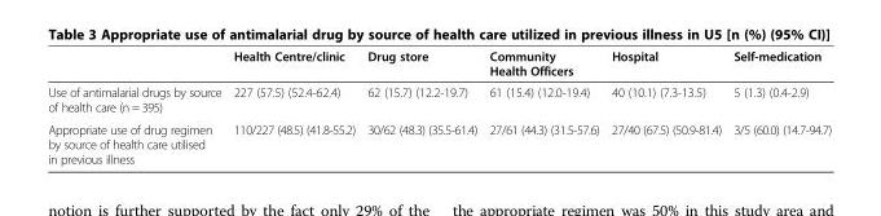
<table><thead><tr><td></td><td>Health Centre/clinic</td><td>Drug store</td><td>Community Health Officers</td><td>Hospital</td><td>Self-medication</td></tr></thead><tbody><tr><td>Use of antimalarial drugs by source of health care (n = 395)</td><td>227 (57.5) (52.4-62.4)</td><td>62 (15.7) (12.2-19.7)</td><td>61 (15.4) (12.0-19.4)</td><td>40 (10.1) (7.3-13.5)</td><td>5 (1.3) (0.4-2.9)</td></tr><tr><td>Appropriate use of drug regimen by source of health care utilised in previous illness</td><td>110/227 (48.5) (41.8-55.2)</td><td>30/62 (48.3) (35.5-61.4)</td><td>27/61 (44.3) (31.5-57.6)</td><td>27/40 (67.5) (50.9-81.4)</td><td>3/5 (60.0) (14.7-94.7)</td></tr></tbody></table>